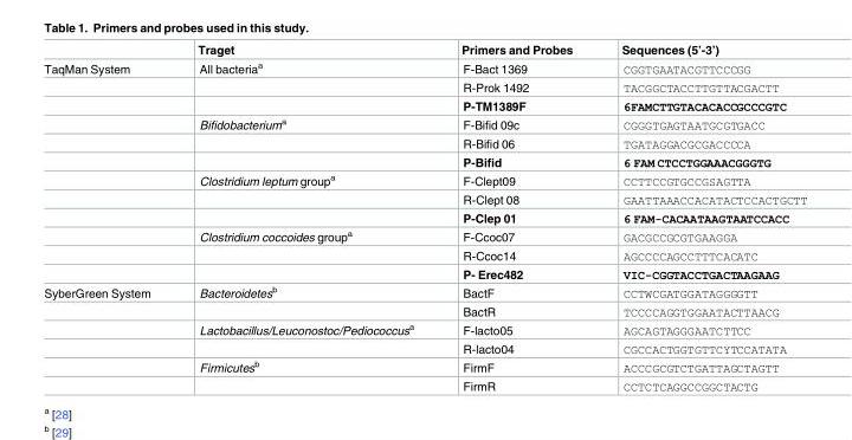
<table><thead><tr><td></td><td>Traget</td><td>Primers and Probes</td><td>Sequences (5’-3’)</td></tr></thead><tbody><tr><td rowspan="12">TaqMan System</td><td>All bacteria<sup>a</sup></td><td>F-Bact 1369</td><td>CGGTGAATACGTTCCCGG</td></tr><tr><td></td><td>R-Prok 1492</td><td>TACGGCTACCTTGTTACGACTT</td></tr><tr><td></td><td>P-TM1389F</td><td>6FAMCTTGTACACACCGCCCGTC</td></tr><tr><td>Bifidobacterium<sup>a</sup></td><td>F-Bifid 09c</td><td>CGGGTGAGTAATGCGTGACC</td></tr><tr><td></td><td>R-Bifid 06</td><td>TGATAGGACGCGACCCCA</td></tr><tr><td></td><td>P-Bifid</td><td>6 FAM CTCCTGGAAACGGGTG</td></tr><tr><td>Clostridium leptum group<sup>a</sup></td><td>F-Clept09</td><td>CCTTCCGTGCCGSAGTTA</td></tr><tr><td></td><td>R-Clept 08</td><td>GAATTAAACCACATACTCCACTGCTT</td></tr><tr><td></td><td>P-Clep 01</td><td>6 FAM-CACAATAAGTAATCCACC</td></tr><tr><td>Clostridium coccoides group<sup>a</sup></td><td>F-Ccoc07</td><td>GACGCCGCGTGAAGGA</td></tr><tr><td></td><td>R-Ccoc14</td><td>AGCCCCAGCCTTTCACATC</td></tr><tr><td></td><td>P- Erec482</td><td>VIC-CGGTACCTGACTAAGAAG</td></tr><tr><td rowspan="6">SyberGreen System</td><td>Bacteroidetes<sup>b</sup></td><td>BactF</td><td>CCTWCGATGGATAGGGGTT</td></tr><tr><td></td><td>BactR</td><td>TCCCCAGGTGGAATACTTAACG</td></tr><tr><td>Lactobacillus/Leuconostoc/Pediococcus<sup>a</sup></td><td>F-lacto05</td><td>AGCAGTAGGGAATCTTCC</td></tr><tr><td></td><td>R-lacto04</td><td>CGCCACTGGTGTTCYTCCATATA</td></tr><tr><td>Firmicutes<sup>b</sup></td><td>FirmF</td><td>ACCCGCGTCTGATTAGCTAGTT</td></tr><tr><td></td><td>FirmR</td><td>CCTCTCAGGCCGGCTACTG</td></tr></tbody></table>